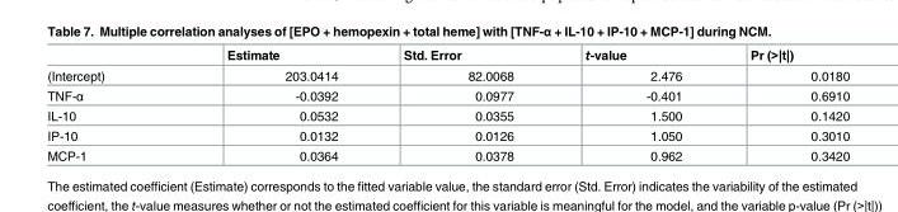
<table><thead><tr><td></td><td>Estimate</td><td>Std. Error</td><td>t-value</td><td>Pr (&gt;|t|)</td></tr></thead><tbody><tr><td>(Intercept)</td><td>203.0414</td><td>82.0068</td><td>2.476</td><td>0.0180</td></tr><tr><td>TNF-α</td><td>-0.0392</td><td>0.0977</td><td>-0.401</td><td>0.6910</td></tr><tr><td>IL-10</td><td>0.0532</td><td>0.0355</td><td>1.500</td><td>0.1420</td></tr><tr><td>IP-10</td><td>0.0132</td><td>0.0126</td><td>1.050</td><td>0.3010</td></tr><tr><td>MCP-1</td><td>0.0364</td><td>0.0378</td><td>0.962</td><td>0.3420</td></tr></tbody></table>